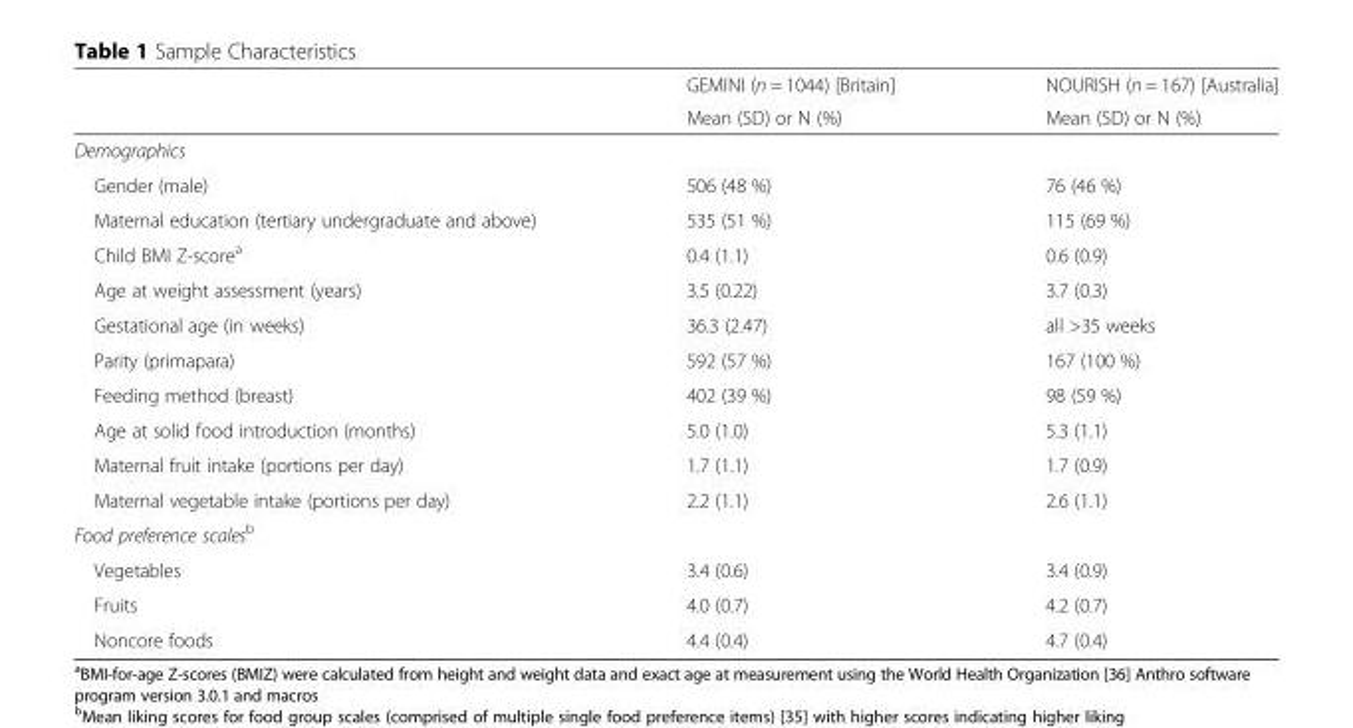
<table><thead><tr><td rowspan="2"></td><td rowspan="2">GEMINI (n = 1044) [Britain] Mean (SD) or N (%)</td><td rowspan="2">NOURISH (n = 167) [Australia] Mean (SD) or N (%)</td></tr><tr></tr></thead><tbody><tr><td colspan="3">Demographics</td></tr><tr><td>Gender (male)</td><td>506 (48 %)</td><td>76 (46 %)</td></tr><tr><td>Maternal education (tertiary undergraduate and above)</td><td>535 (51 %)</td><td>115 (69 %)</td></tr><tr><td>Child BMI Z-score<sup>a</sup></td><td>0.4 (1.1)</td><td>0.6 (0.9)</td></tr><tr><td>Age at weight assessment (years)</td><td>3.5 (0.22)</td><td>3.7 (0.3)</td></tr><tr><td>Gestational age (in weeks)</td><td>36.3 (2.47)</td><td>all &gt;35 weeks</td></tr><tr><td>Parity (primapara)</td><td>592 (57 %)</td><td>167 (100 %)</td></tr><tr><td>Feeding method (breast)</td><td>402 (39 %)</td><td>98 (59 %)</td></tr><tr><td>Age at solid food introduction (months)</td><td>5.0 (1.0)</td><td>5.3 (1.1)</td></tr><tr><td>Maternal fruit intake (portions per day)</td><td>1.7 (1.1)</td><td>1.7 (0.9)</td></tr><tr><td>Maternal vegetable intake (portions per day)</td><td>2.2 (1.1)</td><td>2.6 (1.1)</td></tr><tr><td colspan="3">Food preference scales<sup>b</sup></td></tr><tr><td>Vegetables</td><td>3.4 (0.6)</td><td>3.4 (0.9)</td></tr><tr><td>Fruits</td><td>4.0 (0.7)</td><td>4.2 (0.7)</td></tr><tr><td>Noncore foods</td><td>4.4 (0.4)</td><td>4.7 (0.4)</td></tr></tbody></table>